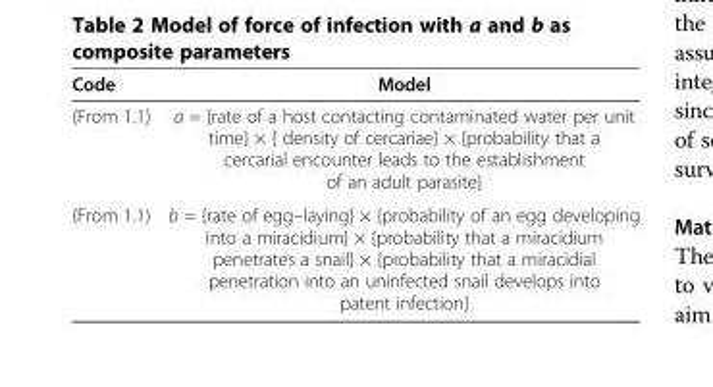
<table><thead><tr><td>Code</td><td>Model</td></tr></thead><tbody><tr><td>(From 1.1)</td><td>a = {rate of a host contacting contaminated water per unit time} × { density of cercariae} × {probability that a cercarial encounter leads to the establishment of an adult parasite}</td></tr><tr><td>(From 1.1)</td><td>b = {rate of egg–laying} × {probability of an egg developing into a miracidium} × {probability that a miracidium penetrates a snail} × {probability that a miracidial penetration into an uninfected snail develops into patent infection}</td></tr></tbody></table>